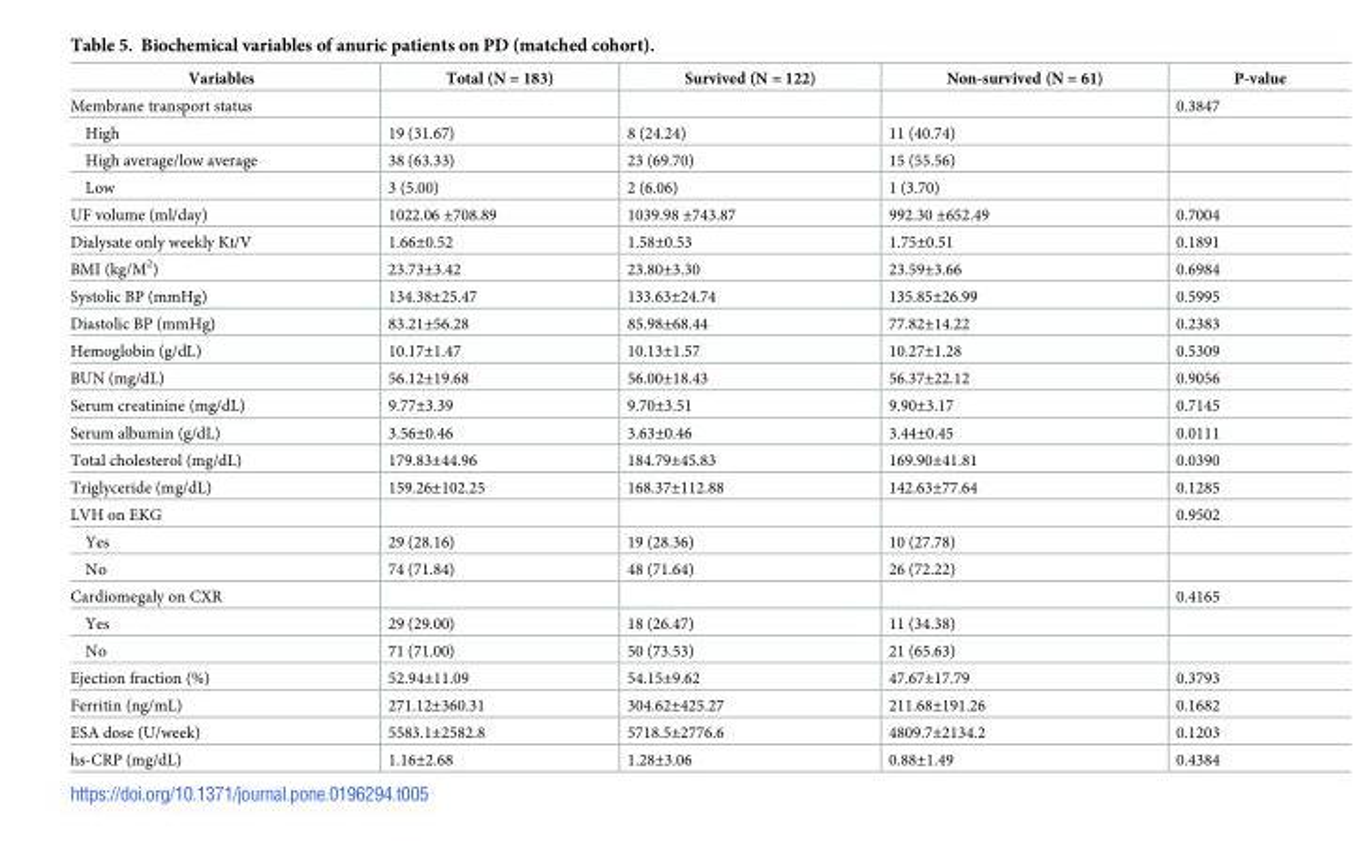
<table><thead><tr><td>Variables</td><td>Total (N = 183)</td><td>Survived (N = 122)</td><td>Non-survived (N = 61)</td><td>P-value</td></tr></thead><tbody><tr><td>Membrane transport status</td><td></td><td></td><td></td><td>0.3847</td></tr><tr><td>High</td><td>19 (31.67)</td><td>8 (24.24)</td><td>11 (40.74)</td><td></td></tr><tr><td>High average/low average</td><td>38 (63.33)</td><td>23 (69.70)</td><td>15 (55.56)</td><td></td></tr><tr><td>Low</td><td>3 (5.00)</td><td>2 (6.06)</td><td>1 (3.70)</td><td></td></tr><tr><td>UF volume (ml/day)</td><td>1022.06 ±708.89</td><td>1039.98 ±743.87</td><td>992.30 ±652.49</td><td>0.7004</td></tr><tr><td>Dialysate only weekly Kt/V</td><td>1.66±0.52</td><td>1.58±0.53</td><td>1.75±0.51</td><td>0.1891</td></tr><tr><td>BMI (kg/M<sup>2</sup>)</td><td>23.73±3.42</td><td>23.80±3.30</td><td>23.59±3.66</td><td>0.6984</td></tr><tr><td>Systolic BP (mmHg)</td><td>134.38±25.47</td><td>133.63±24.74</td><td>135.85±26.99</td><td>0.5995</td></tr><tr><td>Diastolic BP (mmHg)</td><td>83.21±56.28</td><td>85.98±68.44</td><td>77.82±14.22</td><td>0.2383</td></tr><tr><td>Hemoglobin (g/dL)</td><td>10.17±1.47</td><td>10.13±1.57</td><td>10.27±1.28</td><td>0.5309</td></tr><tr><td>BUN (mg/dL)</td><td>56.12±19.68</td><td>56.00±18.43</td><td>56.37±22.12</td><td>0.9056</td></tr><tr><td>Serum creatinine (mg/dL)</td><td>9.77±3.39</td><td>9.70±3.51</td><td>9.90±3.17</td><td>0.7145</td></tr><tr><td>Serum albumin (g/dL)</td><td>3.56±0.46</td><td>3.63±0.46</td><td>3.44±0.45</td><td>0.0111</td></tr><tr><td>Total cholesterol (mg/dL)</td><td>179.83±44.96</td><td>184.79±45.83</td><td>169.90±41.81</td><td>0.0390</td></tr><tr><td>Triglyceride (mg/dL)</td><td>159.26±102.25</td><td>168.37±112.88</td><td>142.63±77.64</td><td>0.1285</td></tr><tr><td>LVH on EKG</td><td></td><td></td><td></td><td>0.9502</td></tr><tr><td>Yes</td><td>29 (28.16)</td><td>19 (28.36)</td><td>10 (27.78)</td><td></td></tr><tr><td>No</td><td>74 (71.84)</td><td>48 (71.64)</td><td>26 (72.22)</td><td></td></tr><tr><td>Cardiomegaly on CXR</td><td></td><td></td><td></td><td>0.4165</td></tr><tr><td>Yes</td><td>29 (29.00)</td><td>18 (26.47)</td><td>11 (34.38)</td><td></td></tr><tr><td>No</td><td>71 (71.00)</td><td>50 (73.53)</td><td>21 (65.63)</td><td></td></tr><tr><td>Ejection fraction (%)</td><td>52.94±11.09</td><td>54.15±9.62</td><td>47.67±17.79</td><td>0.3793</td></tr><tr><td>Ferritin (ng/mL)</td><td>271.12±360.31</td><td>304.62±425.27</td><td>211.68±191.26</td><td>0.1682</td></tr><tr><td>ESA dose (U/week)</td><td>5583.1±2582.8</td><td>5718.5±2776.6</td><td>4809.7±2134.2</td><td>0.1203</td></tr><tr><td>hs-CRP (mg/dL)</td><td>1.16±2.68</td><td>1.28±3.06</td><td>0.88±1.49</td><td>0.4384</td></tr></tbody></table>